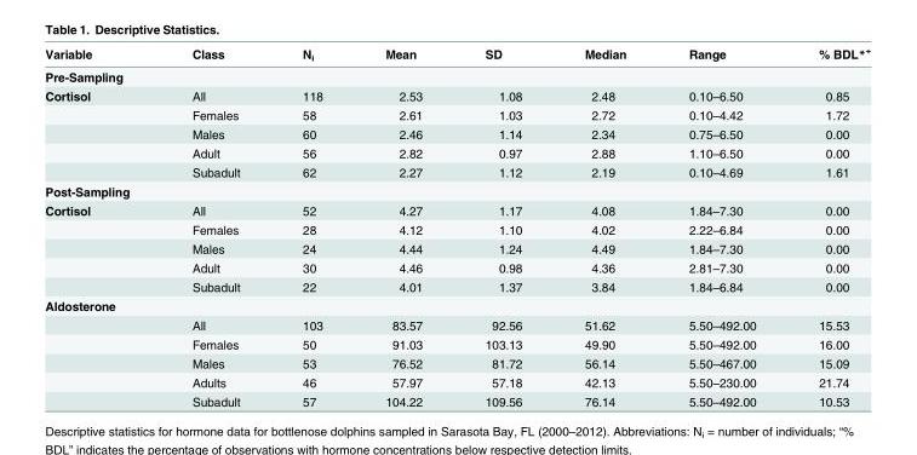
<table><thead><tr><td>Variable</td><td>Class</td><td>N<sub>i</sub></td><td>Mean</td><td>SD</td><td>Median</td><td>Range</td><td>% BDL*<sup>+</sup></td></tr></thead><tbody><tr><td colspan="8">Pre-Sampling</td></tr><tr><td rowspan="5">Cortisol</td><td>All</td><td>118</td><td>2.53</td><td>1.08</td><td>2.48</td><td>0.10–6.50</td><td>0.85</td></tr><tr><td>Females</td><td>58</td><td>2.61</td><td>1.03</td><td>2.72</td><td>0.10–4.42</td><td>1.72</td></tr><tr><td>Males</td><td>60</td><td>2.46</td><td>1.14</td><td>2.34</td><td>0.75–6.50</td><td>0.00</td></tr><tr><td>Adult</td><td>56</td><td>2.82</td><td>0.97</td><td>2.88</td><td>1.10–6.50</td><td>0.00</td></tr><tr><td>Subadult</td><td>62</td><td>2.27</td><td>1.12</td><td>2.19</td><td>0.10–4.69</td><td>1.61</td></tr><tr><td colspan="8">Post-Sampling</td></tr><tr><td rowspan="5">Cortisol</td><td>All</td><td>52</td><td>4.27</td><td>1.17</td><td>4.08</td><td>1.84–7.30</td><td>0.00</td></tr><tr><td>Females</td><td>28</td><td>4.12</td><td>1.10</td><td>4.02</td><td>2.22–6.84</td><td>0.00</td></tr><tr><td>Males</td><td>24</td><td>4.44</td><td>1.24</td><td>4.49</td><td>1.84–7.30</td><td>0.00</td></tr><tr><td>Adult</td><td>30</td><td>4.46</td><td>0.98</td><td>4.36</td><td>2.81–7.30</td><td>0.00</td></tr><tr><td>Subadult</td><td>22</td><td>4.01</td><td>1.37</td><td>3.84</td><td>1.84–6.84</td><td>0.00</td></tr><tr><td colspan="8">Aldosterone</td></tr><tr><td></td><td>All</td><td>103</td><td>83.57</td><td>92.56</td><td>51.62</td><td>5.50–492.00</td><td>15.53</td></tr><tr><td></td><td>Females</td><td>50</td><td>91.03</td><td>103.13</td><td>49.90</td><td>5.50–492.00</td><td>16.00</td></tr><tr><td></td><td>Males</td><td>53</td><td>76.52</td><td>81.72</td><td>56.14</td><td>5.50–467.00</td><td>15.09</td></tr><tr><td></td><td>Adults</td><td>46</td><td>57.97</td><td>57.18</td><td>42.13</td><td>5.50–230.00</td><td>21.74</td></tr><tr><td></td><td>Subadult</td><td>57</td><td>104.22</td><td>109.56</td><td>76.14</td><td>5.50–492.00</td><td>10.53</td></tr></tbody></table>